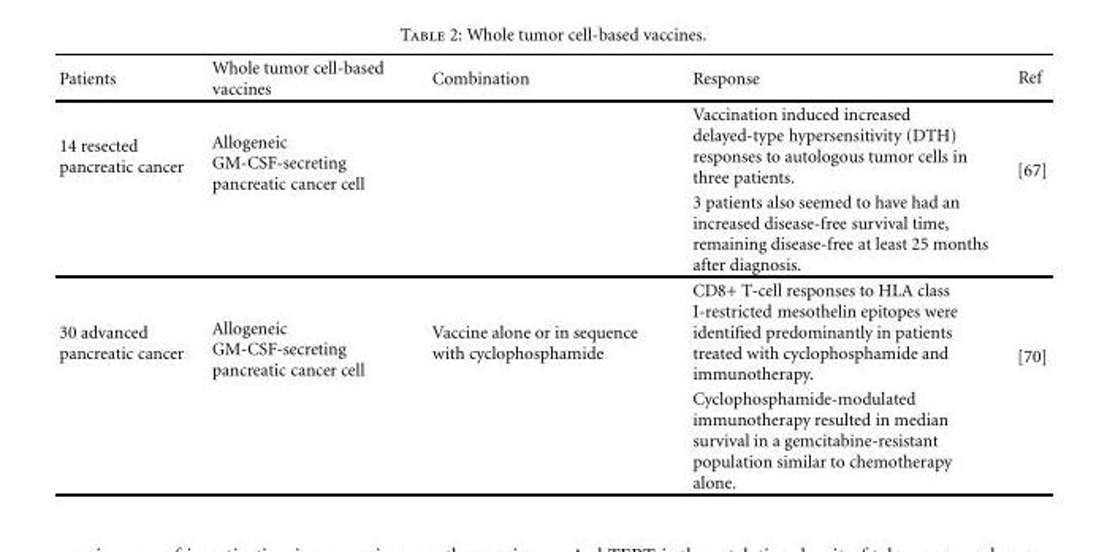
<table><thead><tr><td>Patients</td><td>Whole tumor cell-based vaccines</td><td>Combination</td><td>Response</td><td>Ref</td></tr></thead><tbody><tr><td rowspan="2">14 resected pancreatic cancer</td><td rowspan="2">Allogeneic GM-CSF-secreting pancreatic cancer cell</td><td rowspan="2"></td><td>Vaccination induced increased delayed-type hypersensitivity (DTH) responses to autologous tumor cells in three patients.</td><td rowspan="2">[67]</td></tr><tr><td>3 patients also seemed to have had an increased disease-free survival time, remaining disease-free at least 25 months after diagnosis.</td></tr><tr><td rowspan="2">30 advanced pancreatic cancer</td><td rowspan="2">Allogeneic GM-CSF-secreting pancreatic cancer cell</td><td rowspan="2">Vaccine alone or in sequence with cyclophosphamide</td><td>CD8+ T-cell responses to HLA class I-restricted mesothelin epitopes were identified predominantly in patients treated with cyclophosphamide and immunotherapy.</td><td rowspan="2">[70]</td></tr><tr><td>Cyclophosphamide-modulated immunotherapy resulted in median survival in a gemcitabine-resistant population similar to chemotherapy alone.</td></tr></tbody></table>